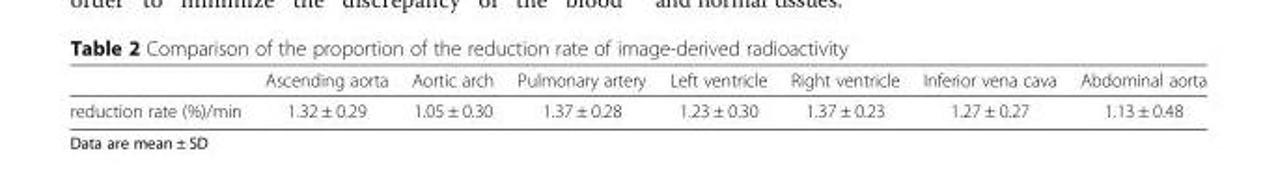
<table><thead><tr><td></td><td>Ascending aorta</td><td>Aortic arch</td><td>Pulmonary artery</td><td>Left ventricle</td><td>Right ventricle</td><td>Inferior vena cava</td><td>Abdominal aorta</td></tr></thead><tbody><tr><td>reduction rate (%)/min</td><td>1.32 ± 0.29</td><td>1.05 ± 0.30</td><td>1.37 ± 0.28</td><td>1.23 ± 0.30</td><td>1.37 ± 0.23</td><td>1.27 ± 0.27</td><td>1.13 ± 0.48</td></tr></tbody></table>